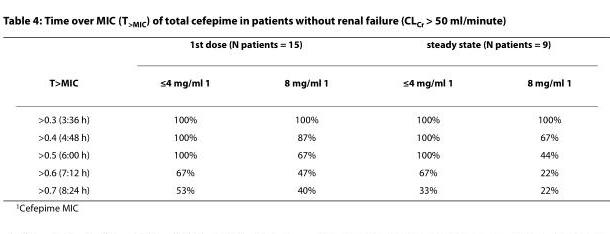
<table><thead><tr><td rowspan="2">T<sub>&gt;MIC</sub></td><td colspan="2">1st dose (N patients = 15)</td><td colspan="2">steady state (N patients = 9)</td></tr><tr><td>≤4 mg/ml <sup>1</sup></td><td>8 mg/ml <sup>1</sup></td><td>≤4 mg/ml <sup>1</sup></td><td>8 mg/ml <sup>1</sup></td></tr></thead><tbody><tr><td>&gt;0.3 (3:36 h)</td><td>100%</td><td>100%</td><td>100%</td><td>100%</td></tr><tr><td>&gt;0.4 (4:48 h)</td><td>100%</td><td>87%</td><td>100%</td><td>67%</td></tr><tr><td>&gt;0.5 (6:00 h)</td><td>100%</td><td>67%</td><td>100%</td><td>44%</td></tr><tr><td>&gt;0.6 (7:12 h)</td><td>67%</td><td>47%</td><td>67%</td><td>22%</td></tr><tr><td>&gt;0.7 (8:24 h)</td><td>53%</td><td>40%</td><td>33%</td><td>22%</td></tr></tbody></table>